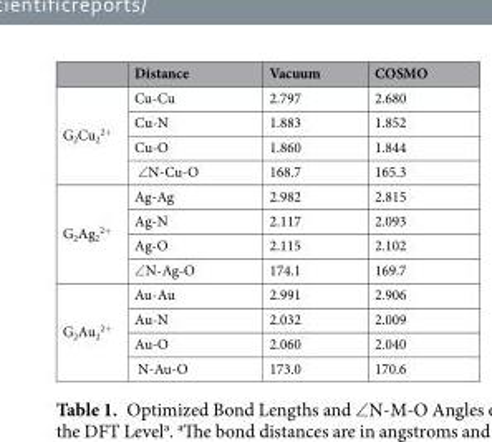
<table><thead><tr><td></td><td>Distance</td><td>Vacuum</td><td>COSMO</td></tr></thead><tbody><tr><td rowspan="4">G<sub>2</sub>Cu<sub>2</sub> <sup>2+</sup></td><td>Cu-Cu</td><td>2.797</td><td>2.680</td></tr><tr><td>Cu-N</td><td>1.883</td><td>1.852</td></tr><tr><td>Cu-O</td><td>1.860</td><td>1.844</td></tr><tr><td>∠N-Cu-O</td><td>168.7</td><td>165.3</td></tr><tr><td rowspan="4">G<sub>2</sub>Ag<sub>2</sub> <sup>2+</sup></td><td>Ag-Ag</td><td>2.982</td><td>2.815</td></tr><tr><td>Ag-N</td><td>2.117</td><td>2.093</td></tr><tr><td>Ag-O</td><td>2.115</td><td>2.102</td></tr><tr><td>∠N-Ag-O</td><td>174.1</td><td>169.7</td></tr><tr><td rowspan="4">G<sub>2</sub>Au<sub>2</sub> <sup>2+</sup></td><td>Au-Au</td><td>2.991</td><td>2.906</td></tr><tr><td>Au-N</td><td>2.032</td><td>2.009</td></tr><tr><td>Au-O</td><td>2.060</td><td>2.040</td></tr><tr><td>N-Au-O</td><td>173.0</td><td>170.6</td></tr></tbody></table>